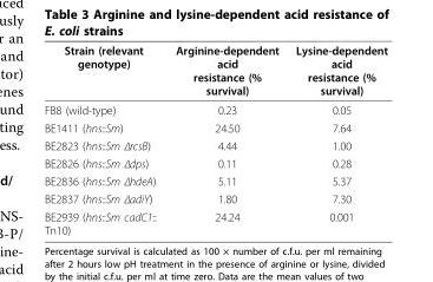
<table><thead><tr><td>Strain (relevant genotype)</td><td>Arginine-dependent acid resistance (% survival)</td><td>Lysine-dependent acid resistance (% survival)</td></tr></thead><tbody><tr><td>FB8 (wild-type)</td><td>0.23</td><td>0.05</td></tr><tr><td>BE1411 (hns::Sm)</td><td>24.50</td><td>7.64</td></tr><tr><td>BE2823 (hns::Sm ΔrcsB)</td><td>4.44</td><td>1.00</td></tr><tr><td>BE2826 (hns::Sm Δdps)</td><td>0.11</td><td>0.28</td></tr><tr><td>BE2836 (hns::Sm ΔhdeA)</td><td>5.11</td><td>5.37</td></tr><tr><td>BE2837 (hns::Sm ΔadiY)</td><td>1.80</td><td>7.30</td></tr><tr><td>BE2939 (hns::Sm cadC1:: Tn10)</td><td>24.24</td><td>0.001</td></tr></tbody></table>